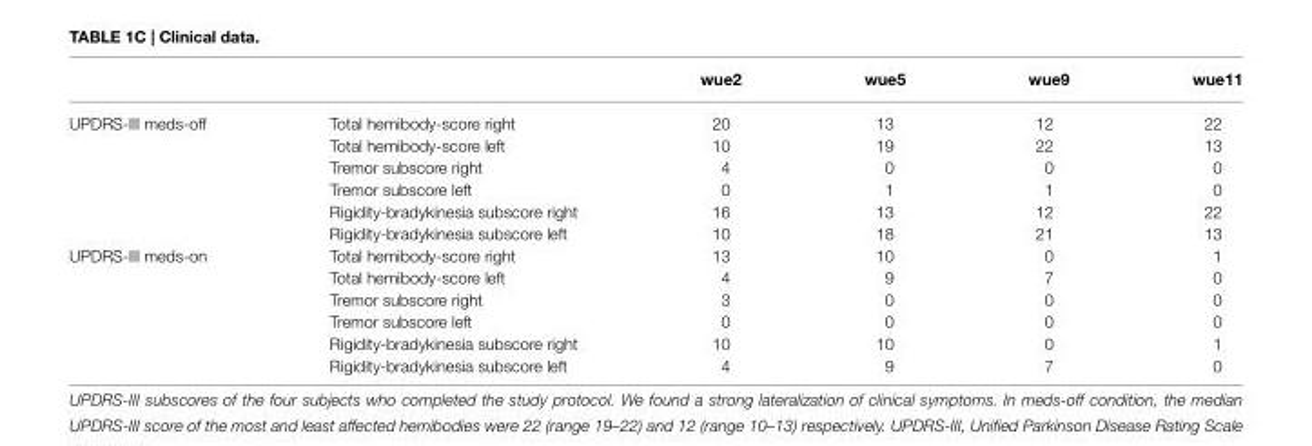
<table><thead><tr><td></td><td></td><td>wue2</td><td>wue5</td><td>wue9</td><td>wue11</td></tr></thead><tbody><tr><td rowspan="6">UPDRS-III meds-off</td><td>Total hemibody-score right</td><td>20</td><td>13</td><td>12</td><td>22</td></tr><tr><td>Total hemibody-score left</td><td>10</td><td>19</td><td>22</td><td>13</td></tr><tr><td>Tremor subscore right</td><td>4</td><td>0</td><td>0</td><td>0</td></tr><tr><td>Tremor subscore left</td><td>0</td><td>1</td><td>1</td><td>0</td></tr><tr><td>Rigidity-bradykinesia subscore right</td><td>16</td><td>13</td><td>12</td><td>22</td></tr><tr><td>Rigidity-bradykinesia subscore left</td><td>10</td><td>18</td><td>21</td><td>13</td></tr><tr><td rowspan="6">UPDRS-III meds-on</td><td>Total hemibody-score right</td><td>13</td><td>10</td><td>0</td><td>1</td></tr><tr><td>Total hemibody-score left</td><td>4</td><td>9</td><td>7</td><td>0</td></tr><tr><td>Tremor subscore right</td><td>3</td><td>0</td><td>0</td><td>0</td></tr><tr><td>Tremor subscore left</td><td>0</td><td>0</td><td>0</td><td>0</td></tr><tr><td>Rigidity-bradykinesia subscore right</td><td>10</td><td>10</td><td>0</td><td>1</td></tr><tr><td>Rigidity-bradykinesia subscore left</td><td>4</td><td>9</td><td>7</td><td>0</td></tr></tbody></table>